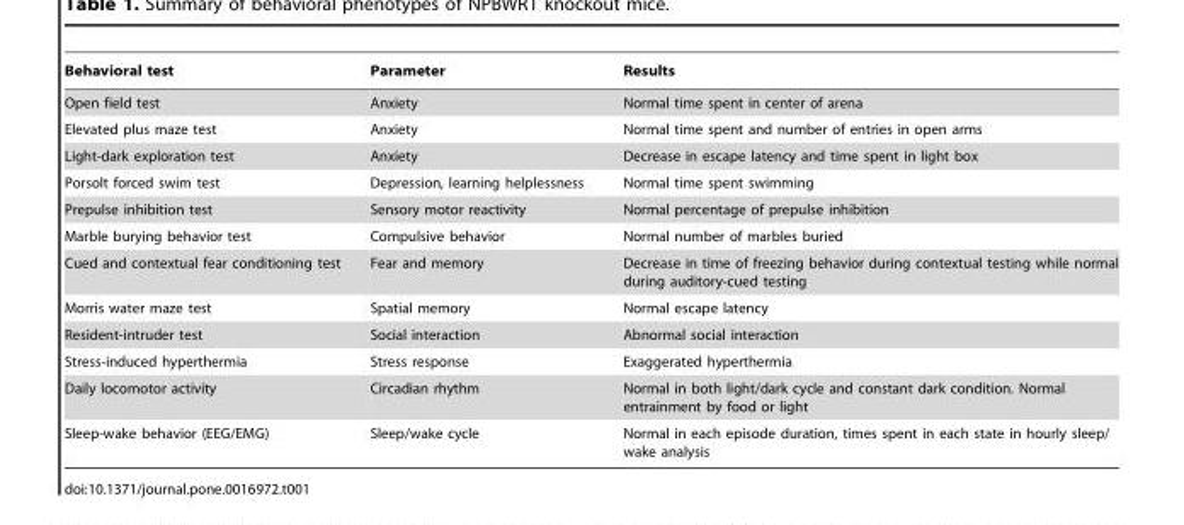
<table><thead><tr><td>Behavioral test</td><td>Parameter</td><td>Results</td></tr></thead><tbody><tr><td>Open field test</td><td>Anxiety</td><td>Normal time spent in center of arena</td></tr><tr><td>Elevated plus maze test</td><td>Anxiety</td><td>Normal time spent and number of entries in open arms</td></tr><tr><td>Light-dark exploration test</td><td>Anxiety</td><td>Decrease in escape latency and time spent in light box</td></tr><tr><td>Porsolt forced swim test</td><td>Depression, learning helplessness</td><td>Normal time spent swimming</td></tr><tr><td>Prepulse inhibition test</td><td>Sensory motor reactivity</td><td>Normal percentage of prepulse inhibition</td></tr><tr><td>Marble burying behavior test</td><td>Compulsive behavior</td><td>Normal number of marbles buried</td></tr><tr><td>Cued and contextual fear conditioning test</td><td>Fear and memory</td><td>Decrease in time of freezing behavior during contextual testing while normal during auditory-cued testing</td></tr><tr><td>Morris water maze test</td><td>Spatial memory</td><td>Normal escape latency</td></tr><tr><td>Resident-intruder test</td><td>Social interaction</td><td>Abnormal social interaction</td></tr><tr><td>Stress-induced hyperthermia</td><td>Stress response</td><td>Exaggerated hyperthermia</td></tr><tr><td>Daily locomotor activity</td><td>Circadian rhythm</td><td>Normal in both light/dark cycle and constant dark condition. Normal entrainment by food or light</td></tr><tr><td>Sleep-wake behavior (EEG/EMG)</td><td>Sleep/wake cycle</td><td>Normal in each episode duration, times spent in each state in hourly sleep/ wake analysis</td></tr></tbody></table>